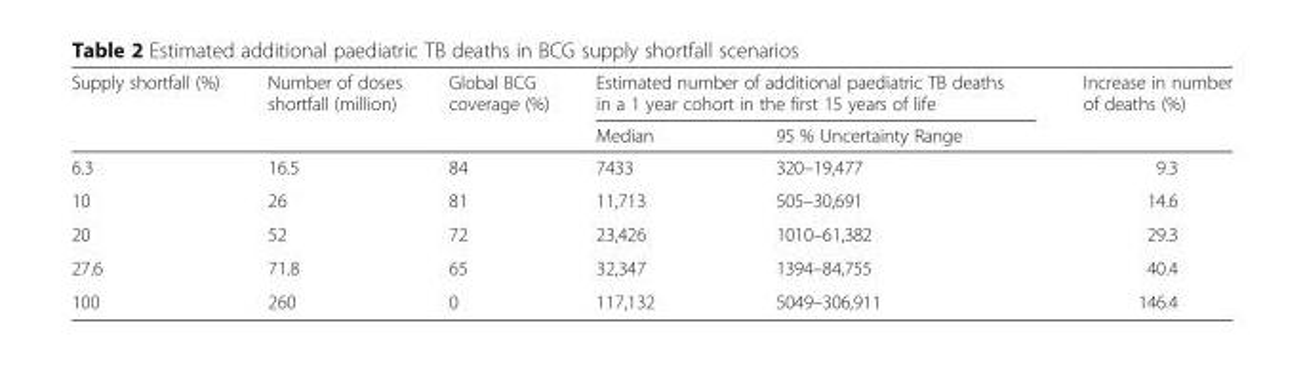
<table><thead><tr><td rowspan="2">Supply shortfall (%)</td><td rowspan="2">Number of doses shortfall (million)</td><td rowspan="2">Global BCG coverage (%)</td><td colspan="2">Estimated number of additional paediatric TB deaths in a 1 year cohort in the first 15 years of life</td><td rowspan="2">Increase in number of deaths (%)</td></tr><tr><td>Median</td><td>95 % Uncertainty Range</td></tr></thead><tbody><tr><td>6.3</td><td>16.5</td><td>84</td><td>7433</td><td>320–19,477</td><td>9.3</td></tr><tr><td>10</td><td>26</td><td>81</td><td>11,713</td><td>505–30,691</td><td>14.6</td></tr><tr><td>20</td><td>52</td><td>72</td><td>23,426</td><td>1010–61,382</td><td>29.3</td></tr><tr><td>27.6</td><td>71.8</td><td>65</td><td>32,347</td><td>1394–84,755</td><td>40.4</td></tr><tr><td>100</td><td>260</td><td>0</td><td>117,132</td><td>5049–306,911</td><td>146.4</td></tr></tbody></table>